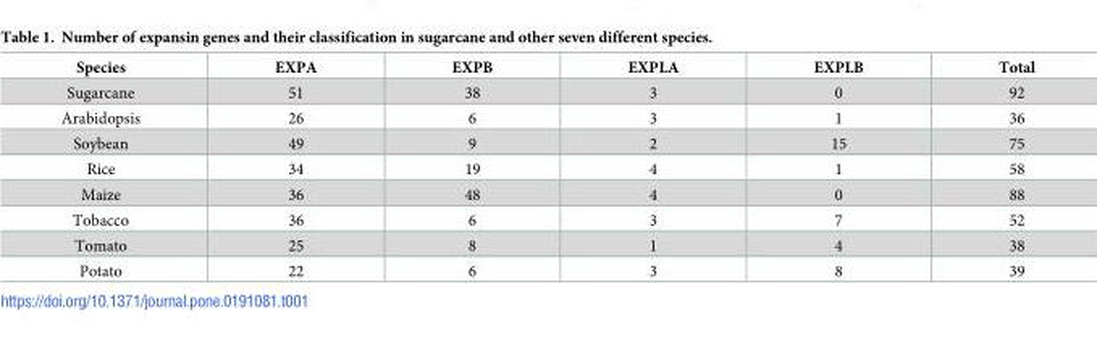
<table><thead><tr><td>Species</td><td>EXPA</td><td>EXPB</td><td>EXPLA</td><td>EXPLB</td><td>Total</td></tr></thead><tbody><tr><td>Sugarcane</td><td>51</td><td>38</td><td>3</td><td>0</td><td>92</td></tr><tr><td>Arabidopsis</td><td>26</td><td>6</td><td>3</td><td>1</td><td>36</td></tr><tr><td>Soybean</td><td>49</td><td>9</td><td>2</td><td>15</td><td>75</td></tr><tr><td>Rice</td><td>34</td><td>19</td><td>4</td><td>1</td><td>58</td></tr><tr><td>Maize</td><td>36</td><td>48</td><td>4</td><td>0</td><td>88</td></tr><tr><td>Tobacco</td><td>36</td><td>6</td><td>3</td><td>7</td><td>52</td></tr><tr><td>Tomato</td><td>25</td><td>8</td><td>1</td><td>4</td><td>38</td></tr><tr><td>Potato</td><td>22</td><td>6</td><td>3</td><td>8</td><td>39</td></tr></tbody></table>